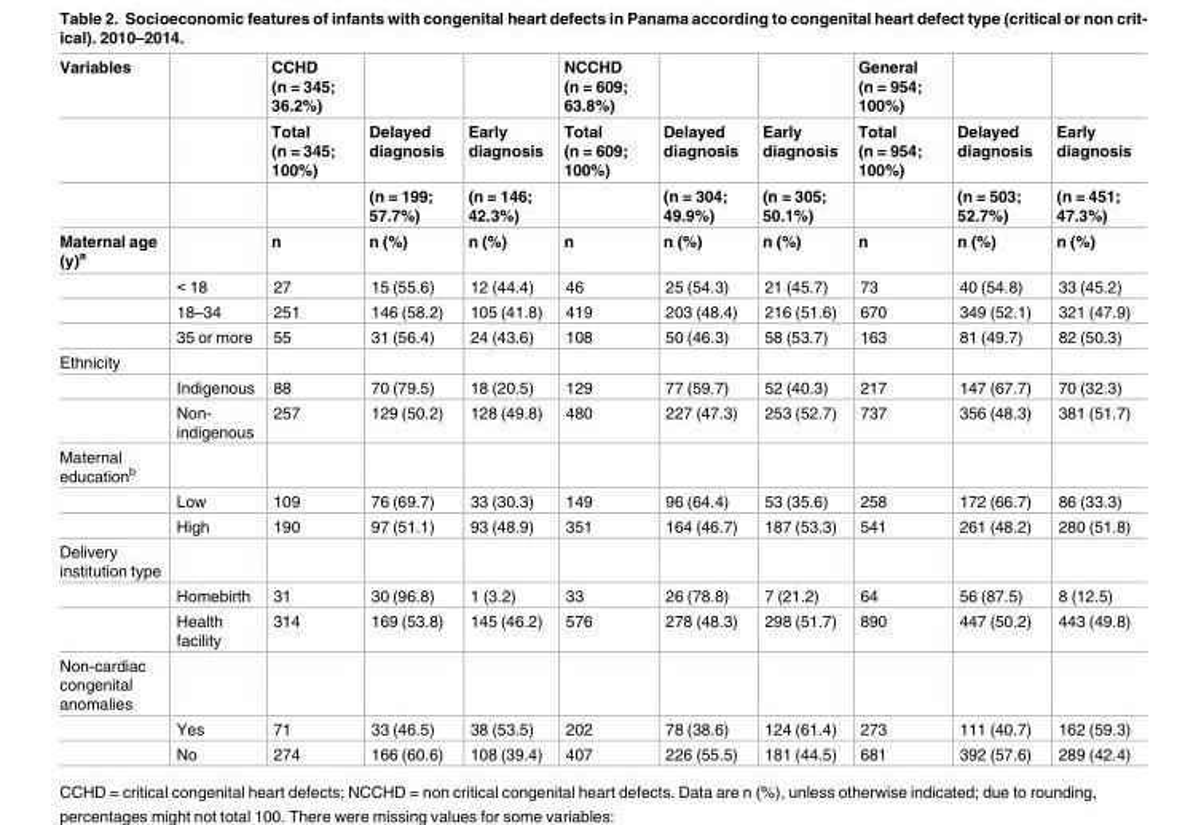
<table><thead><tr><td rowspan="4">Variables Maternal age (y)<sup>a</sup></td><td rowspan="4"></td><td rowspan="4">CCHD (n = 345; 36.2%) Total (n = 345; 100%) n</td><td rowspan="4">Delayed diagnosis (n = 199; 57.7%) n (%)</td><td rowspan="4">Early diagnosis (n = 146; 42.3%) n (%)</td><td rowspan="4">NCCHD (n = 609; 63.8%) Total (n = 609; 100%) n</td><td rowspan="4">Delayed diagnosis (n = 304; 49.9%) n (%)</td><td rowspan="4">Early diagnosis (n = 305; 50.1%) n (%)</td><td rowspan="4">General (n = 954; 100%) Total (n = 954; 100%) n</td><td rowspan="4">Delayed diagnosis (n = 503; 52.7%) n (%)</td><td rowspan="4">Early diagnosis (n = 451; 47.3%) n (%)</td></tr><tr></tr><tr></tr><tr></tr></thead><tbody><tr><td></td><td>&lt; 18</td><td>27</td><td>15 (55.6)</td><td>12 (44.4)</td><td>46</td><td>25 (54.3)</td><td>21 (45.7)</td><td>73</td><td>40 (54.8)</td><td>33 (45.2)</td></tr><tr><td></td><td>18–34</td><td>251</td><td>146 (58.2)</td><td>105 (41.8)</td><td>419</td><td>203 (48.4)</td><td>216 (51.6)</td><td>670</td><td>349 (52.1)</td><td>321 (47.9)</td></tr><tr><td></td><td>35 or more</td><td>55</td><td>31 (56.4)</td><td>24 (43.6)</td><td>108</td><td>50 (46.3)</td><td>58 (53.7)</td><td>163</td><td>81 (49.7)</td><td>82 (50.3)</td></tr><tr><td colspan="11">Ethnicity</td></tr><tr><td></td><td>Indigenous</td><td>88</td><td>70 (79.5)</td><td>18 (20.5)</td><td>129</td><td>77 (59.7)</td><td>52 (40.3)</td><td>217</td><td>147 (67.7)</td><td>70 (32.3)</td></tr><tr><td></td><td>Non- indigenous</td><td>257</td><td>129 (50.2)</td><td>128 (49.8)</td><td>480</td><td>227 (47.3)</td><td>253 (52.7)</td><td>737</td><td>356 (48.3)</td><td>381 (51.7)</td></tr><tr><td colspan="11">Maternal education<sup>b</sup></td></tr><tr><td></td><td>Low</td><td>109</td><td>76 (69.7)</td><td>33 (30.3)</td><td>149</td><td>96 (64.4)</td><td>53 (35.6)</td><td>258</td><td>172 (66.7)</td><td>86 (33.3)</td></tr><tr><td></td><td>High</td><td>190</td><td>97 (51.1)</td><td>93 (48.9)</td><td>351</td><td>164 (46.7)</td><td>187 (53.3)</td><td>541</td><td>261 (48.2)</td><td>280 (51.8)</td></tr><tr><td colspan="11">Delivery institution type</td></tr><tr><td></td><td>Homebirth</td><td>31</td><td>30 (96.8)</td><td>1 (3.2)</td><td>33</td><td>26 (78.8)</td><td>7 (21.2)</td><td>64</td><td>56 (87.5)</td><td>8 (12.5)</td></tr><tr><td></td><td>Health facility</td><td>314</td><td>169 (53.8)</td><td>145 (46.2)</td><td>576</td><td>278 (48.3)</td><td>298 (51.7)</td><td>890</td><td>447 (50.2)</td><td>443 (49.8)</td></tr><tr><td colspan="11">Non-cardiac congenital anomalies</td></tr><tr><td></td><td>Yes</td><td>71</td><td>33 (46.5)</td><td>38 (53.5)</td><td>202</td><td>78 (38.6)</td><td>124 (61.4)</td><td>273</td><td>111 (40.7)</td><td>162 (59.3)</td></tr><tr><td></td><td>No</td><td>274</td><td>166 (60.6)</td><td>108 (39.4)</td><td>407</td><td>226 (55.5)</td><td>181 (44.5)</td><td>681</td><td>392 (57.6)</td><td>289 (42.4)</td></tr></tbody></table>